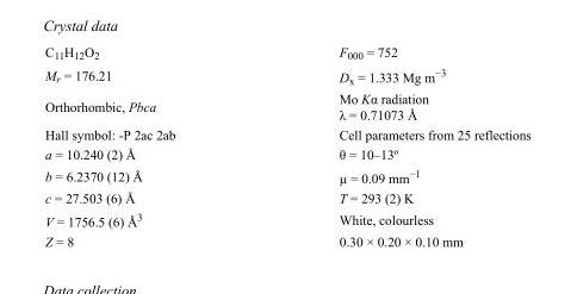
<table><tbody><tr><td>C<sub>11</sub>H<sub>12</sub>O<sub>2</sub></td><td>F000 = 752</td></tr><tr><td>M<sub>r</sub> = 176.21</td><td>D<sub>x</sub> = 1.333 Mg m<sup>−3</sup></td></tr><tr><td>Orthorhombic, Pbca</td><td>Mo Kα radiation λ = 0.71073 Å</td></tr><tr><td>Hall symbol: -P 2ac 2ab</td><td>Cell parameters from 25 reflections</td></tr><tr><td>a = 10.240 (2) Å</td><td>θ = 10–13º</td></tr><tr><td>b = 6.2370 (12) Å</td><td>µ = 0.09 mm<sup>−1</sup></td></tr><tr><td>c = 27.503 (6) Å</td><td>T = 293 (2) K</td></tr><tr><td>V = 1756.5 (6) Å<sup>3</sup></td><td>White, colourless</td></tr><tr><td>Z = 8</td><td>0.30 × 0.20 × 0.10 mm</td></tr></tbody></table>